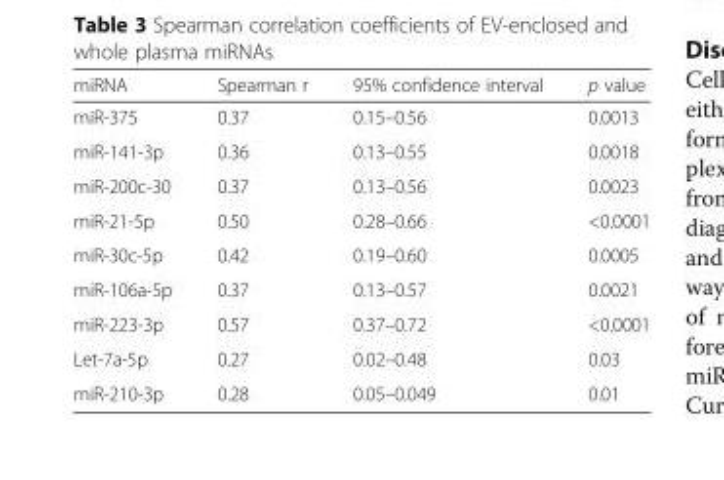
<table><thead><tr><td>miRNA</td><td>Spearman r</td><td>95% confidence interval</td><td>p value</td></tr></thead><tbody><tr><td>miR-375</td><td>0.37</td><td>0.15–0.56</td><td>0.0013</td></tr><tr><td>miR-141-3p</td><td>0.36</td><td>0.13–0.55</td><td>0.0018</td></tr><tr><td>miR-200c-30</td><td>0.37</td><td>0.13–0.56</td><td>0.0023</td></tr><tr><td>miR-21-5p</td><td>0.50</td><td>0.28–0.66</td><td>&lt;0.0001</td></tr><tr><td>miR-30c-5p</td><td>0.42</td><td>0.19–0.60</td><td>0.0005</td></tr><tr><td>miR-106a-5p</td><td>0.37</td><td>0.13–0.57</td><td>0.0021</td></tr><tr><td>miR-223-3p</td><td>0.57</td><td>0.37–0.72</td><td>&lt;0.0001</td></tr><tr><td>Let-7a-5p</td><td>0.27</td><td>0.02–0.48</td><td>0.03</td></tr><tr><td>miR-210-3p</td><td>0.28</td><td>0.05–0.049</td><td>0.01</td></tr></tbody></table>